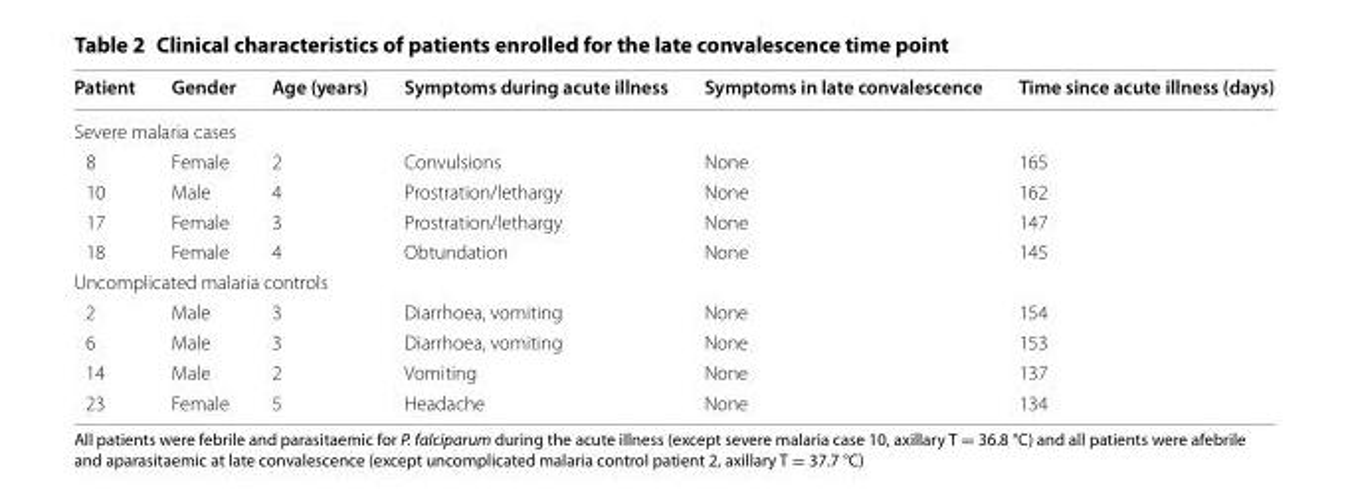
<table><thead><tr><td>Patient</td><td>Gender</td><td>Age (years)</td><td>Symptoms during acute illness</td><td>Symptoms in late convalescence</td><td>Time since acute illness (days)</td></tr></thead><tbody><tr><td colspan="6">Severe malaria cases</td></tr><tr><td>8</td><td>Female</td><td>2</td><td>Convulsions</td><td>None</td><td>165</td></tr><tr><td>10</td><td>Male</td><td>4</td><td>Prostration/lethargy</td><td>None</td><td>162</td></tr><tr><td>17</td><td>Female</td><td>3</td><td>Prostration/lethargy</td><td>None</td><td>147</td></tr><tr><td>18</td><td>Female</td><td>4</td><td>Obtundation</td><td>None</td><td>145</td></tr><tr><td colspan="6">Uncomplicated malaria controls</td></tr><tr><td>2</td><td>Male</td><td>3</td><td>Diarrhoea, vomiting</td><td>None</td><td>154</td></tr><tr><td>6</td><td>Male</td><td>3</td><td>Diarrhoea, vomiting</td><td>None</td><td>153</td></tr><tr><td>14</td><td>Male</td><td>2</td><td>Vomiting</td><td>None</td><td>137</td></tr><tr><td>23</td><td>Female</td><td>5</td><td>Headache</td><td>None</td><td>134</td></tr></tbody></table>